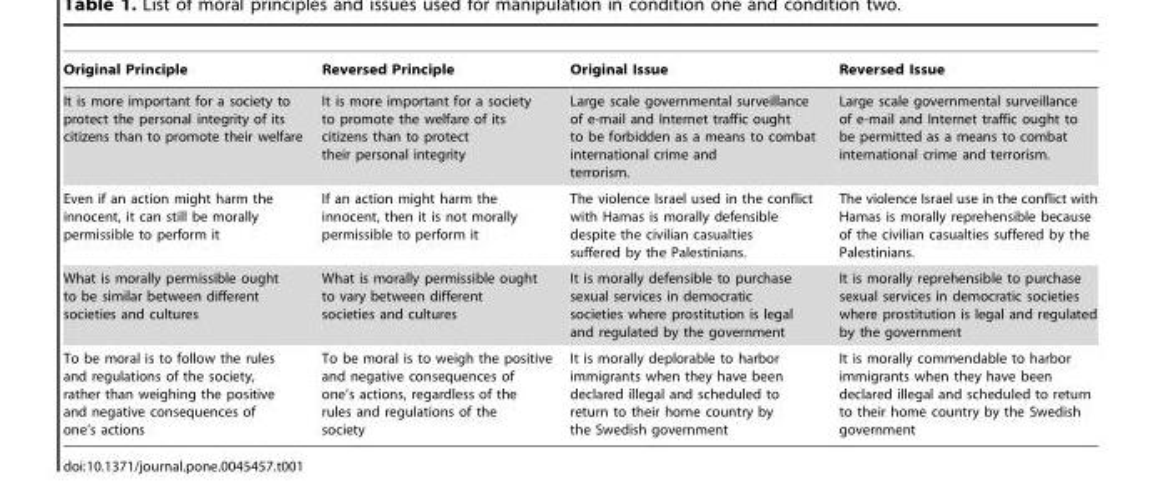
<table><thead><tr><td>Original Principle</td><td>Reversed Principle</td><td>Original Issue</td><td>Reversed Issue</td></tr></thead><tbody><tr><td>It is more important for a society to protect the personal integrity of its citizens than to promote their welfare</td><td>It is more important for a society to promote the welfare of its citizens than to protect their personal integrity</td><td>Large scale governmental surveillance of e-mail and Internet traffic ought to be forbidden as a means to combat international crime and terrorism.</td><td>Large scale governmental surveillance of e-mail and Internet traffic ought to be permitted as a means to combat international crime and terrorism.</td></tr><tr><td>Even if an action might harm the innocent, it can still be morally permissible to perform it</td><td>If an action might harm the innocent, then it is not morally permissible to perform it</td><td>The violence Israel used in the conflict with Hamas is morally defensible despite the civilian casualties suffered by the Palestinians.</td><td>The violence Israel use in the conflict with Hamas is morally reprehensible because of the civilian casualties suffered by the Palestinians.</td></tr><tr><td>What is morally permissible ought to be similar between different societies and cultures</td><td>What is morally permissible ought to vary between different societies and cultures</td><td>It is morally defensible to purchase sexual services in democratic societies where prostitution is legal and regulated by the government</td><td>It is morally reprehensible to purchase sexual services in democratic societies where prostitution is legal and regulated by the government</td></tr><tr><td>To be moral is to follow the rules and regulations of the society, rather than weighing the positive and negative consequences of one’s actions</td><td>To be moral is to weigh the positive and negative consequences of one’s actions, regardless of the rules and regulations of the society</td><td>It is morally deplorable to harbor immigrants when they have been declared illegal and scheduled to return to their home country by the Swedish government</td><td>It is morally commendable to harbor immigrants when they have been declared illegal and scheduled to return to their home country by the Swedish government</td></tr></tbody></table>